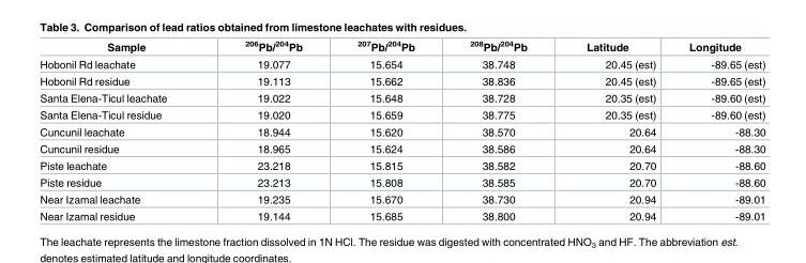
<table><thead><tr><td>Sample</td><td><sup>206</sup>Pb/<sup>204</sup>Pb</td><td><sup>207</sup>Pb/<sup>204</sup>Pb</td><td><sup>208</sup>Pb/<sup>204</sup>Pb</td><td>Latitude</td><td>Longitude</td></tr></thead><tbody><tr><td>Hobonil Rd leachate</td><td>19.077</td><td>15.654</td><td>38.748</td><td>20.45 (est)</td><td>-89.65 (est)</td></tr><tr><td>Hobonil Rd residue</td><td>19.113</td><td>15.662</td><td>38.836</td><td>20.45 (est)</td><td>-89.65 (est)</td></tr><tr><td>Santa Elena-Ticul leachate</td><td>19.022</td><td>15.648</td><td>38.728</td><td>20.35 (est)</td><td>-89.60 (est)</td></tr><tr><td>Santa Elena-Ticul residue</td><td>19.020</td><td>15.659</td><td>38.775</td><td>20.35 (est)</td><td>-89.60 (est)</td></tr><tr><td>Cuncunil leachate</td><td>18.944</td><td>15.620</td><td>38.570</td><td>20.64</td><td>-88.30</td></tr><tr><td>Cuncunil residue</td><td>18.965</td><td>15.624</td><td>38.586</td><td>20.64</td><td>-88.30</td></tr><tr><td>Piste leachate</td><td>23.218</td><td>15.815</td><td>38.582</td><td>20.70</td><td>-88.60</td></tr><tr><td>Piste residue</td><td>23.213</td><td>15.808</td><td>38.585</td><td>20.70</td><td>-88.60</td></tr><tr><td>Near Izamal leachate</td><td>19.235</td><td>15.670</td><td>38.730</td><td>20.94</td><td>-89.01</td></tr><tr><td>Near Izamal residue</td><td>19.144</td><td>15.685</td><td>38.800</td><td>20.94</td><td>-89.01</td></tr></tbody></table>